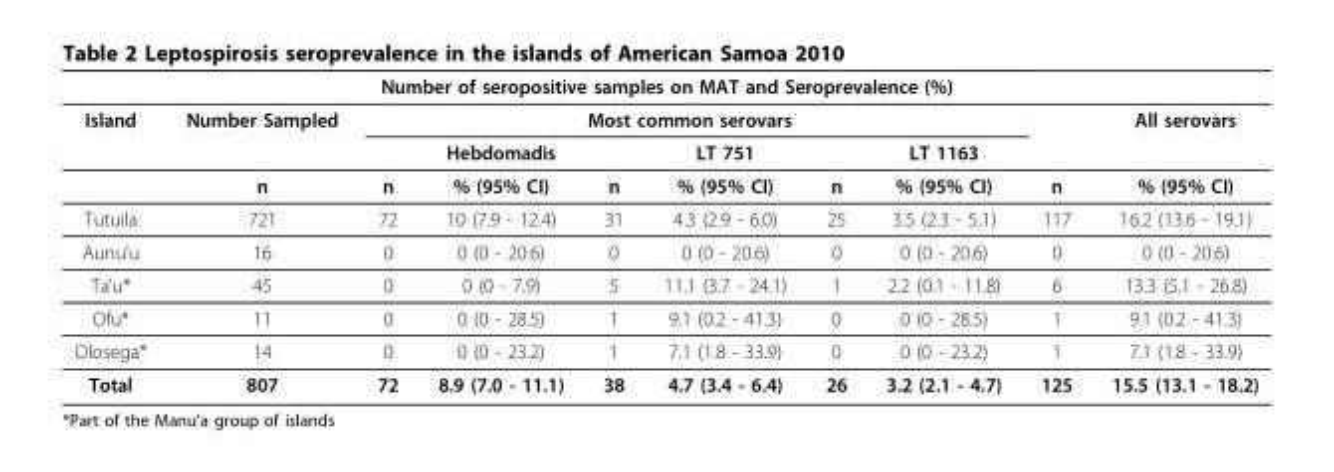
<table><thead><tr><td colspan="10">Number of seropositive samples on MAT and Seroprevalence (%)</td></tr><tr><td rowspan="2">Island</td><td rowspan="2">Number Sampled</td><td colspan="6">Most common serovars</td><td rowspan="2"></td><td rowspan="2">All serovars</td></tr><tr><td></td><td>Hebdomadis</td><td></td><td>LT 751</td><td></td><td>LT 1163</td></tr></thead><tbody><tr><td></td><td>n</td><td>n</td><td>% (95% CI)</td><td>n</td><td>% (95% CI)</td><td>n</td><td>% (95% CI)</td><td>n</td><td>% (95% CI)</td></tr><tr><td>Tutuila</td><td>721</td><td>72</td><td>10 (7.9 - 12.4)</td><td>31</td><td>4.3 (2.9 - 6.0)</td><td>25</td><td>3.5 (2.3 - 5.1)</td><td>117</td><td>16.2 (13.6 - 19.1)</td></tr><tr><td>Aunu’u</td><td>16</td><td>0</td><td>0 (0 - 20.6)</td><td>0</td><td>0 (0 - 20.6)</td><td>0</td><td>0 (0 - 20.6)</td><td>0</td><td>0 (0 - 20.6)</td></tr><tr><td>Ta’u*</td><td>45</td><td>0</td><td>0 (0 - 7.9)</td><td>5</td><td>11.1 (3.7 - 24.1)</td><td>1</td><td>2.2 (0.1 - 11.8)</td><td>6</td><td>13.3 (5.1 - 26.8)</td></tr><tr><td>Ofu*</td><td>11</td><td>0</td><td>0 (0 - 28.5)</td><td>1</td><td>9.1 (0.2 - 41.3)</td><td>0</td><td>0 (0 - 28.5)</td><td>1</td><td>9.1 (0.2 - 41.3)</td></tr><tr><td>Olosega*</td><td>14</td><td>0</td><td>0 (0 - 23.2)</td><td>1</td><td>7.1 (1.8 - 33.9)</td><td>0</td><td>0 (0 - 23.2)</td><td>1</td><td>7.1 (1.8 - 33.9)</td></tr><tr><td>Total</td><td>807</td><td>72</td><td>8.9 (7.0 - 11.1)</td><td>38</td><td>4.7 (3.4 - 6.4)</td><td>26</td><td>3.2 (2.1 - 4.7)</td><td>125</td><td>15.5 (13.1 - 18.2)</td></tr></tbody></table>